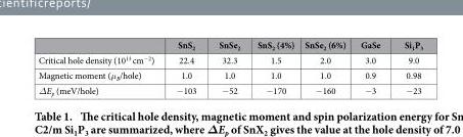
<table><thead><tr><td></td><td>SnS<sub>2</sub></td><td>SnSe<sub>2</sub></td><td>SnS<sub>2</sub> (4%)</td><td>SnSe<sub>2</sub> (6%)</td><td>GaSe</td><td>Si<sub>1</sub>P<sub>3</sub></td></tr></thead><tbody><tr><td>Critical hole density (10<sup>13</sup> cm<sup>−2</sup>)</td><td>22.4</td><td>32.3</td><td>1.5</td><td>2.0</td><td>3.0</td><td>9.0</td></tr><tr><td>Magnetic moment (μ<sub>B</sub>/hole)</td><td>1.0</td><td>1.0</td><td>1.0</td><td>1.0</td><td>0.9</td><td>0.98</td></tr><tr><td>ΔE<sub>p</sub> (meV/hole)</td><td>− 103</td><td>− 52</td><td>− 170</td><td>− 160</td><td>− 3</td><td>− 23</td></tr></tbody></table>